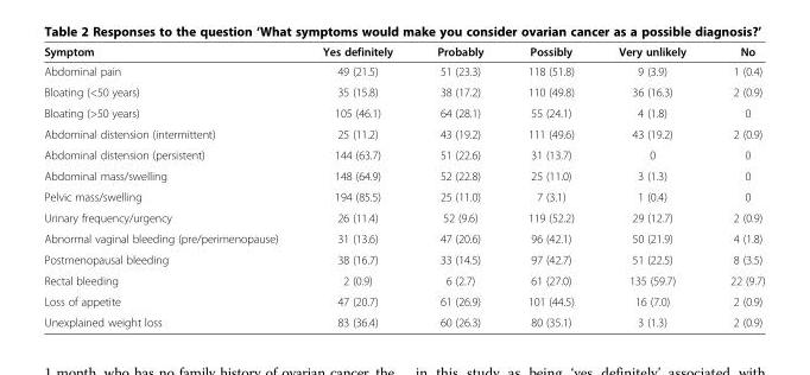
<table><thead><tr><td>Symptom</td><td>Yes definitely</td><td>Probably</td><td>Possibly</td><td>Very unlikely</td><td>No</td></tr></thead><tbody><tr><td>Abdominal pain</td><td>49 (21.5)</td><td>51 (23.3)</td><td>118 (51.8)</td><td>9 (3.9)</td><td>1 (0.4)</td></tr><tr><td>Bloating (&lt;50 years)</td><td>35 (15.8)</td><td>38 (17.2)</td><td>110 (49.8)</td><td>36 (16.3)</td><td>2 (0.9)</td></tr><tr><td>Bloating (&gt;50 years)</td><td>105 (46.1)</td><td>64 (28.1)</td><td>55 (24.1)</td><td>4 (1.8)</td><td>0</td></tr><tr><td>Abdominal distension (intermittent)</td><td>25 (11.2)</td><td>43 (19.2)</td><td>111 (49.6)</td><td>43 (19.2)</td><td>2 (0.9)</td></tr><tr><td>Abdominal distension (persistent)</td><td>144 (63.7)</td><td>51 (22.6)</td><td>31 (13.7)</td><td>0</td><td>0</td></tr><tr><td>Abdominal mass/swelling</td><td>148 (64.9)</td><td>52 (22.8)</td><td>25 (11.0)</td><td>3 (1.3)</td><td>0</td></tr><tr><td>Pelvic mass/swelling</td><td>194 (85.5)</td><td>25 (11.0)</td><td>7 (3.1)</td><td>1 (0.4)</td><td>0</td></tr><tr><td>Urinary frequency/urgency</td><td>26 (11.4)</td><td>52 (9.6)</td><td>119 (52.2)</td><td>29 (12.7)</td><td>2 (0.9)</td></tr><tr><td>Abnormal vaginal bleeding (pre/perimenopause)</td><td>31 (13.6)</td><td>47 (20.6)</td><td>96 (42.1)</td><td>50 (21.9)</td><td>4 (1.8)</td></tr><tr><td>Postmenopausal bleeding</td><td>38 (16.7)</td><td>33 (14.5)</td><td>97 (42.7)</td><td>51 (22.5)</td><td>8 (3.5)</td></tr><tr><td>Rectal bleeding</td><td>2 (0.9)</td><td>6 (2.7)</td><td>61 (27.0)</td><td>135 (59.7)</td><td>22 (9.7)</td></tr><tr><td>Loss of appetite</td><td>47 (20.7)</td><td>61 (26.9)</td><td>101 (44.5)</td><td>16 (7.0)</td><td>2 (0.9)</td></tr><tr><td>Unexplained weight loss</td><td>83 (36.4)</td><td>60 (26.3)</td><td>80 (35.1)</td><td>3 (1.3)</td><td>2 (0.9)</td></tr></tbody></table>